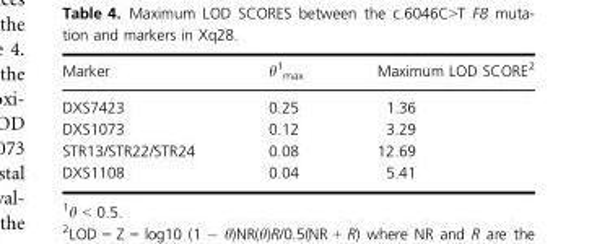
<table><thead><tr><td>Marker</td><td>h1 max</td><td>Maximum LOD SCORE2</td></tr></thead><tbody><tr><td>DXS7423</td><td>0.25</td><td>1.36</td></tr><tr><td>DXS1073</td><td>0.12</td><td>3.29</td></tr><tr><td>STR13/STR22/STR24</td><td>0.08</td><td>12.69</td></tr><tr><td>DXS1108</td><td>0.04</td><td>5.41</td></tr></tbody></table>